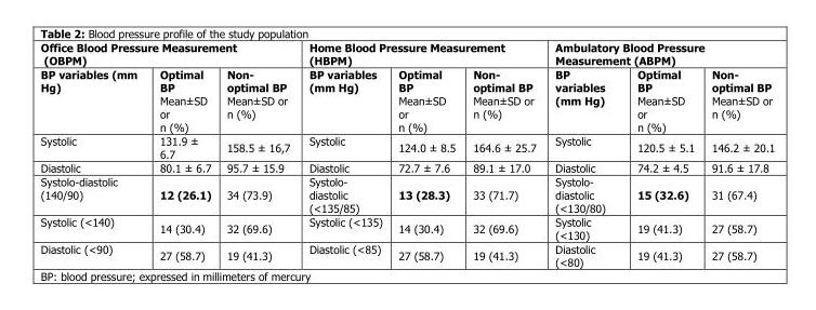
<table><thead><tr><td colspan="3">Office Blood Pressure Measurement (OBPM)</td><td colspan="3">Home Blood Pressure Measurement (HBPM)</td><td colspan="3">Ambulatory Blood Pressure Measurement (ABPM)</td></tr><tr><td>BP variables (mm Hg)</td><td>Optimal BP Mean±SD or n (%)</td><td>Non- optimal BP Mean±SD or n (%)</td><td>BP variables (mm Hg)</td><td>Optimal BP Mean±SD or n (%)</td><td>Non- optimal BP Mean±SD or n (%)</td><td>BP variables (mm Hg)</td><td>Optimal BP Mean±SD or n (%)</td><td>Non- optimal BP Mean±SD or n (%)</td></tr></thead><tbody><tr><td>Systolic</td><td>131.9 ± 6.7</td><td>158.5 ± 16,7</td><td>Systolic</td><td>124.0 ± 8.5</td><td>164.6 ± 25.7</td><td>Systolic</td><td>120.5 ± 5.1</td><td>146.2 ± 20.1</td></tr><tr><td>Diastolic</td><td>80.1 ± 6.7</td><td>95.7 ± 15.9</td><td>Diastolic</td><td>72.7 ± 7.6</td><td>89.1 ± 17.0</td><td>Diastolic</td><td>74.2 ± 4.5</td><td>91.6 ± 17.8</td></tr><tr><td>Systolo-diastolic (140/90)</td><td>12 (26.1)</td><td>34 (73.9)</td><td>Systolo- diastolic (&lt;135/85)</td><td>13 (28.3)</td><td>33 (71.7)</td><td>Systolo- diastolic (&lt;130/80)</td><td>15 (32.6)</td><td>31 (67.4)</td></tr><tr><td>Systolic (&lt;140)</td><td>14 (30.4)</td><td>32 (69.6)</td><td>Systolic (&lt;135)</td><td>14 (30.4)</td><td>32 (69.6)</td><td>Systolic (&lt;130)</td><td>19 (41.3)</td><td>27 (58.7)</td></tr><tr><td>Diastolic (&lt;90)</td><td>27 (58.7)</td><td>19 (41.3)</td><td>Diastolic (&lt;85)</td><td>27 (58.7)</td><td>19 (41.3)</td><td>Diastolic (&lt;80)</td><td>19 (41.3)</td><td>27 (58.7)</td></tr></tbody></table>